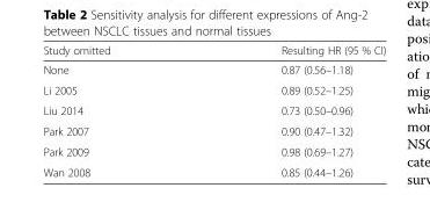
<table><thead><tr><td>Study omitted</td><td>Resulting HR (95 % CI)</td></tr></thead><tbody><tr><td>None</td><td>0.87 (0.56–1.18)</td></tr><tr><td>Li 2005</td><td>0.89 (0.52–1.25)</td></tr><tr><td>Liu 2014</td><td>0.73 (0.50–0.96)</td></tr><tr><td>Park 2007</td><td>0.90 (0.47–1.32)</td></tr><tr><td>Park 2009</td><td>0.98 (0.69–1.27)</td></tr><tr><td>Wan 2008</td><td>0.85 (0.44–1.26)</td></tr></tbody></table>